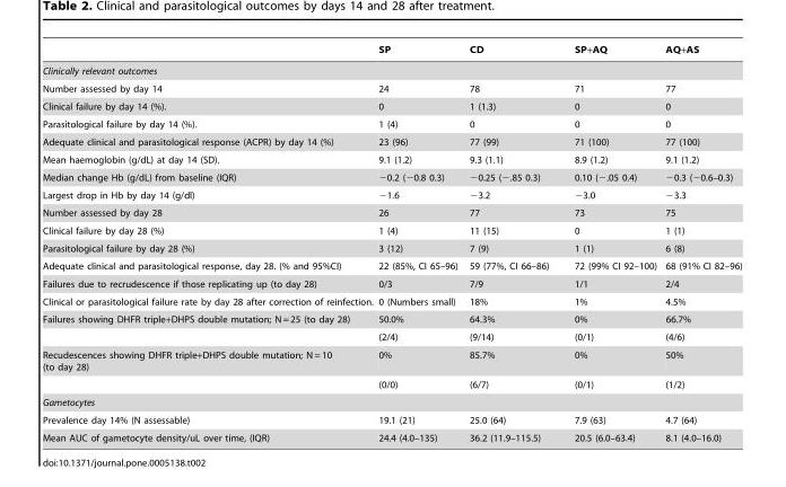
<table><thead><tr><td></td><td>SP</td><td>CD</td><td>SP+AQ</td><td>AQ+AS</td></tr></thead><tbody><tr><td colspan="5">Clinically relevant outcomes</td></tr><tr><td>Number assessed by day 14</td><td>24</td><td>78</td><td>71</td><td>77</td></tr><tr><td>Clinical failure by day 14 (%).</td><td>0</td><td>1 (1.3)</td><td>0</td><td>0</td></tr><tr><td>Parasitological failure by day 14 (%).</td><td>1 (4)</td><td>0</td><td>0</td><td>0</td></tr><tr><td>Adequate clinical and parasitological response (ACPR) by day 14 (%)</td><td>23 (96)</td><td>77 (99)</td><td>71 (100)</td><td>77 (100)</td></tr><tr><td>Mean haemoglobin (g/dL) at day 14 (SD).</td><td>9.1 (1.2)</td><td>9.3 (1.1)</td><td>8.9 (1.2)</td><td>9.1 (1.2)</td></tr><tr><td>Median change Hb (g/dL) from baseline (IQR)</td><td>−0.2 (−0.8 0.3)</td><td>−0.25 (−.85 0.3)</td><td>0.10 (−.05 0.4)</td><td>−0.3 (−0.6–0.3)</td></tr><tr><td>Largest drop in Hb by day 14 (g/dl)</td><td>−1.6</td><td>−3.2</td><td>−3.0</td><td>−3.3</td></tr><tr><td>Number assessed by day 28</td><td>26</td><td>77</td><td>73</td><td>75</td></tr><tr><td>Clinical failure by day 28 (%)</td><td>1 (4)</td><td>11 (15)</td><td>0</td><td>1 (1)</td></tr><tr><td>Parasitological failure by day 28 (%)</td><td>3 (12)</td><td>7 (9)</td><td>1 (1)</td><td>6 (8)</td></tr><tr><td>Adequate clinical and parasitological response, day 28. (% and 95%CI)</td><td>22 (85%, CI 65–96)</td><td>59 (77%, CI 66–86)</td><td>72 (99% CI 92–100)</td><td>68 (91% CI 82–96)</td></tr><tr><td>Failures due to recrudescence if those replicating up (to day 28)</td><td>0/3</td><td>7/9</td><td>1/1</td><td>2/4</td></tr><tr><td>Clinical or parasitological failure rate by day 28 after correction of reinfection.</td><td>0 (Numbers small)</td><td>18%</td><td>1%</td><td>4.5%</td></tr><tr><td rowspan="2">Failures showing DHFR triple+DHPS double mutation; N = 25 (to day 28)</td><td>50.0%</td><td>64.3%</td><td>0%</td><td>66.7%</td></tr><tr><td>(2/4)</td><td>(9/14)</td><td>(0/1)</td><td>(4/6)</td></tr><tr><td rowspan="2">Recudescences showing DHFR triple+DHPS double mutation; N = 10 (to day 28)</td><td>0%</td><td>85.7%</td><td>0%</td><td>50%</td></tr><tr><td>(0/0)</td><td>(6/7)</td><td>(0/1)</td><td>(1/2)</td></tr><tr><td colspan="5">Gametocytes</td></tr><tr><td>Prevalence day 14% (N assessable)</td><td>19.1 (21)</td><td>25.0 (64)</td><td>7.9 (63)</td><td>4.7 (64)</td></tr><tr><td>Mean AUC of gametocyte density/uL over time, (IQR)</td><td>24.4 (4.0–135)</td><td>36.2 (11.9–115.5)</td><td>20.5 (6.0–63.4)</td><td>8.1 (4.0–16.0)</td></tr></tbody></table>